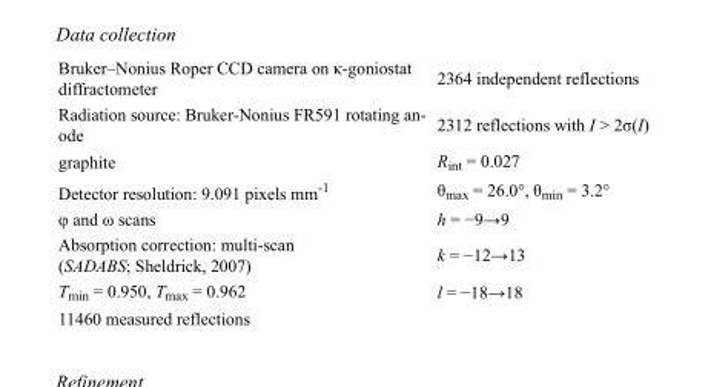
<table><tbody><tr><td>Bruker–Nonius Roper CCD camera on κ-goniostat diffractometer</td><td>2364 independent reflections</td></tr><tr><td>Radiation source: Bruker-Nonius FR591 rotating an- ode</td><td>2312 reflections with I &gt; 2σ(I)</td></tr><tr><td>graphite</td><td>R<sub>int</sub> = 0.027</td></tr><tr><td>Detector resolution: 9.091 pixels mm<sup>-1</sup></td><td>θ<sub>max</sub> = 26.0°, θ<sub>min</sub> = 3.2°</td></tr><tr><td>φ and ω scans</td><td>h = −9→9</td></tr><tr><td>Absorption correction: multi-scan (SADABS; Sheldrick, 2007)</td><td>k = −12→13</td></tr><tr><td>T<sub>min</sub> = 0.950, T<sub>max</sub> = 0.962</td><td>l = −18→18</td></tr><tr><td>11460 measured reflections</td><td></td></tr></tbody></table>